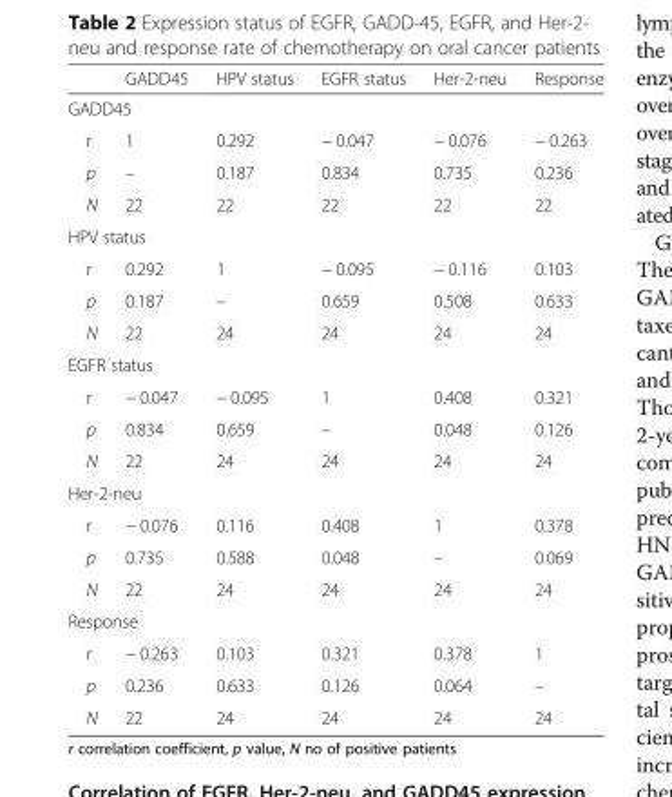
<table><thead><tr><td></td><td>GADD45</td><td>HPV status</td><td>EGFR status</td><td>Her-2-neu</td><td>Response</td></tr></thead><tbody><tr><td colspan="6">GADD45</td></tr><tr><td>r</td><td>1</td><td>0.292</td><td>− 0.047</td><td>− 0.076</td><td>− 0.263</td></tr><tr><td>p</td><td>–</td><td>0.187</td><td>0.834</td><td>0.735</td><td>0.236</td></tr><tr><td>N</td><td>22</td><td>22</td><td>22</td><td>22</td><td>22</td></tr><tr><td colspan="6">HPV status</td></tr><tr><td>r</td><td>0.292</td><td>1</td><td>− 0.095</td><td>− 0.116</td><td>0.103</td></tr><tr><td>p</td><td>0.187</td><td>–</td><td>0.659</td><td>0.508</td><td>0.633</td></tr><tr><td>N</td><td>22</td><td>24</td><td>24</td><td>24</td><td>24</td></tr><tr><td colspan="6">EGFR status</td></tr><tr><td>r</td><td>− 0.047</td><td>− 0.095</td><td>1</td><td>0.408</td><td>0.321</td></tr><tr><td>p</td><td>0.834</td><td>0.659</td><td>–</td><td>0.048</td><td>0.126</td></tr><tr><td>N</td><td>22</td><td>24</td><td>24</td><td>24</td><td>24</td></tr><tr><td colspan="6">Her-2-neu</td></tr><tr><td>r</td><td>− 0.076</td><td>0.116</td><td>0.408</td><td>1</td><td>0.378</td></tr><tr><td>p</td><td>0.735</td><td>0.588</td><td>0.048</td><td>–</td><td>0.069</td></tr><tr><td>N</td><td>22</td><td>24</td><td>24</td><td>24</td><td>24</td></tr><tr><td colspan="6">Response</td></tr><tr><td>r</td><td>− 0.263</td><td>0.103</td><td>0.321</td><td>0.378</td><td>1</td></tr><tr><td>p</td><td>0.236</td><td>0.633</td><td>0.126</td><td>0.064</td><td>–</td></tr><tr><td>N</td><td>22</td><td>24</td><td>24</td><td>24</td><td>24</td></tr></tbody></table>